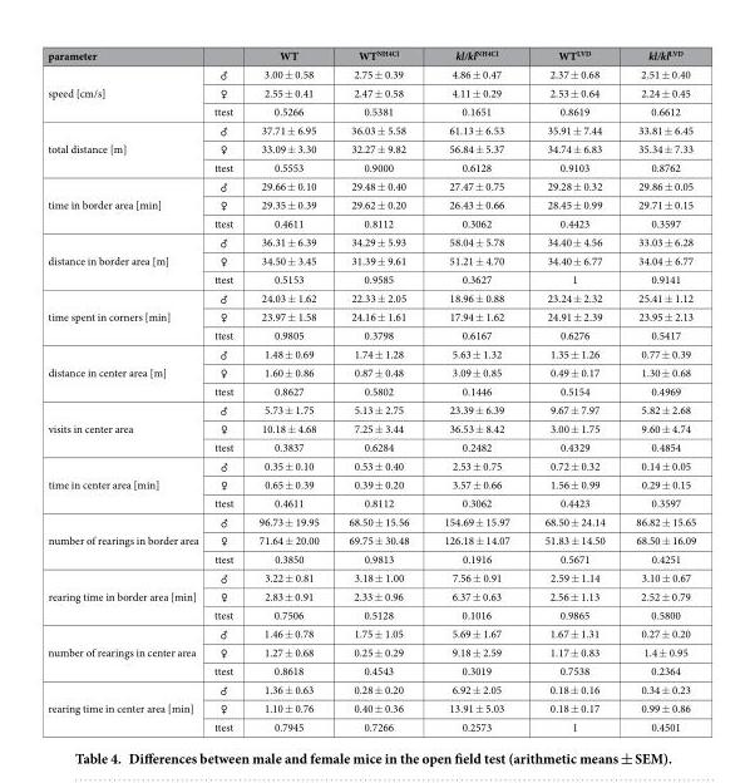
<table><thead><tr><td>parameter</td><td></td><td>WT</td><td>WT<sup>NH4Cl</sup></td><td>kl/kl<sup>NH4Cl</sup></td><td>WT<sup>LVD</sup></td><td>kl/kl<sup>LVD</sup></td></tr></thead><tbody><tr><td rowspan="3">speed [cm/s]</td><td>♂</td><td>3.00 ± 0.58</td><td>2.75 ± 0.39</td><td>4.86 ± 0.47</td><td>2.37 ± 0.68</td><td>2.51 ± 0.40</td></tr><tr><td>♀</td><td>2.55 ± 0.41</td><td>2.47 ± 0.58</td><td>4.11 ± 0.29</td><td>2.53 ± 0.64</td><td>2.24 ± 0.45</td></tr><tr><td>ttest</td><td>0.5266</td><td>0.5381</td><td>0.1651</td><td>0.8619</td><td>0.6612</td></tr><tr><td rowspan="3">total distance [m]</td><td>♂</td><td>37.71 ± 6.95</td><td>36.03 ± 5.58</td><td>61.13 ± 6.53</td><td>35.91 ± 7.44</td><td>33.81 ± 6.45</td></tr><tr><td>♀</td><td>33.09 ± 3.30</td><td>32.27 ± 9.82</td><td>56.84 ± 5.37</td><td>34.74 ± 6.83</td><td>35.34 ± 7.33</td></tr><tr><td>ttest</td><td>0.5553</td><td>0.9000</td><td>0.6128</td><td>0.9103</td><td>0.8762</td></tr><tr><td rowspan="3">time in border area [min]</td><td>♂</td><td>29.66 ± 0.10</td><td>29.48 ± 0.40</td><td>27.47 ± 0.75</td><td>29.28 ± 0.32</td><td>29.86 ± 0.05</td></tr><tr><td>♀</td><td>29.35 ± 0.39</td><td>29.62 ± 0.20</td><td>26.43 ± 0.66</td><td>28.45 ± 0.99</td><td>29.71 ± 0.15</td></tr><tr><td>ttest</td><td>0.4611</td><td>0.8112</td><td>0.3062</td><td>0.4423</td><td>0.3597</td></tr><tr><td rowspan="3">distance in border area [m]</td><td>♂</td><td>36.31 ± 6.39</td><td>34.29 ± 5.93</td><td>58.04 ± 5.78</td><td>34.40 ± 4.56</td><td>33.03 ± 6.28</td></tr><tr><td>♀</td><td>34.50 ± 3.45</td><td>31.39 ± 9.61</td><td>51.21 ± 4.70</td><td>34.40 ± 6.77</td><td>34.04 ± 6.77</td></tr><tr><td>ttest</td><td>0.5153</td><td>0.9585</td><td>0.3627</td><td>1</td><td>0.9141</td></tr><tr><td rowspan="3">time spent in corners [min]</td><td>♂</td><td>24.03 ± 1.62</td><td>22.33 ± 2.05</td><td>18.96 ± 0.88</td><td>23.24 ± 2.32</td><td>25.41 ± 1.12</td></tr><tr><td>♀</td><td>23.97 ± 1.58</td><td>24.16 ± 1.61</td><td>17.94 ± 1.62</td><td>24.91 ± 2.39</td><td>23.95 ± 2.13</td></tr><tr><td>ttest</td><td>0.9805</td><td>0.3798</td><td>0.6167</td><td>0.6276</td><td>0.5417</td></tr><tr><td rowspan="3">distance in center area [m]</td><td>♂</td><td>1.48 ± 0.69</td><td>1.74 ± 1.28</td><td>5.63 ± 1.32</td><td>1.35 ± 1.26</td><td>0.77 ± 0.39</td></tr><tr><td>♀</td><td>1.60 ± 0.86</td><td>0.87 ± 0.48</td><td>3.09 ± 0.85</td><td>0.49 ± 0.17</td><td>1.30 ± 0.68</td></tr><tr><td>ttest</td><td>0.8627</td><td>0.5802</td><td>0.1446</td><td>0.5154</td><td>0.4969</td></tr><tr><td rowspan="3">visits in center area</td><td>♂</td><td>5.73 ± 1.75</td><td>5.13 ± 2.75</td><td>23.39 ± 6.39</td><td>9.67 ± 7.97</td><td>5.82 ± 2.68</td></tr><tr><td>♀</td><td>10.18 ± 4.68</td><td>7.25 ± 3.44</td><td>36.53 ± 8.42</td><td>3.00 ± 1.75</td><td>9.60 ± 4.74</td></tr><tr><td>ttest</td><td>0.3837</td><td>0.6284</td><td>0.2482</td><td>0.4329</td><td>0.4854</td></tr><tr><td rowspan="3">time in center area [min]</td><td>♂</td><td>0.35 ± 0.10</td><td>0.53 ± 0.40</td><td>2.53 ± 0.75</td><td>0.72 ± 0.32</td><td>0.14 ± 0.05</td></tr><tr><td>♀</td><td>0.65 ± 0.39</td><td>0.39 ± 0.20</td><td>3.57 ± 0.66</td><td>1.56 ± 0.99</td><td>0.29 ± 0.15</td></tr><tr><td>ttest</td><td>0.4611</td><td>0.8112</td><td>0.3062</td><td>0.4423</td><td>0.3597</td></tr><tr><td rowspan="3">number of rearings in border area</td><td>♂</td><td>96.73 ± 19.95</td><td>68.50 ± 15.56</td><td>154.69 ± 15.97</td><td>68.50 ± 24.14</td><td>86.82 ± 15.65</td></tr><tr><td>♀</td><td>71.64 ± 20.00</td><td>69.75 ± 30.48</td><td>126.18 ± 14.07</td><td>51.83 ± 14.50</td><td>68.50 ± 16.09</td></tr><tr><td>ttest</td><td>0.3850</td><td>0.9813</td><td>0.1916</td><td>0.5671</td><td>0.4251</td></tr><tr><td rowspan="3">rearing time in border area [min]</td><td>♂</td><td>3.22 ± 0.81</td><td>3.18 ± 1.00</td><td>7.56 ± 0.91</td><td>2.59 ± 1.14</td><td>3.10 ± 0.67</td></tr><tr><td>♀</td><td>2.83 ± 0.91</td><td>2.33 ± 0.96</td><td>6.37 ± 0.63</td><td>2.56 ± 1.13</td><td>2.52 ± 0.79</td></tr><tr><td>ttest</td><td>0.7506</td><td>0.5128</td><td>0.1016</td><td>0.9865</td><td>0.5800</td></tr><tr><td rowspan="3">number of rearings in center area</td><td>♂</td><td>1.46 ± 0.78</td><td>1.75 ± 1.05</td><td>5.69 ± 1.67</td><td>1.67 ± 1.31</td><td>0.27 ± 0.20</td></tr><tr><td>♀</td><td>1.27 ± 0.68</td><td>0.25 ± 0.29</td><td>9.18 ± 2.59</td><td>1.17 ± 0.83</td><td>1.4 ± 0.95</td></tr><tr><td>ttest</td><td>0.8618</td><td>0.4543</td><td>0.3019</td><td>0.7538</td><td>0.2364</td></tr><tr><td rowspan="3">rearing time in center area [min]</td><td>♂</td><td>1.36 ± 0.63</td><td>0.28 ± 0.20</td><td>6.92 ± 2.05</td><td>0.18 ± 0.16</td><td>0.34 ± 0.23</td></tr><tr><td>♀</td><td>1.10 ± 0.76</td><td>0.40 ± 0.36</td><td>13.91 ± 5.03</td><td>0.18 ± 0.17</td><td>0.99 ± 0.86</td></tr><tr><td>ttest</td><td>0.7945</td><td>0.7266</td><td>0.2573</td><td>1</td><td>0.4501</td></tr></tbody></table>